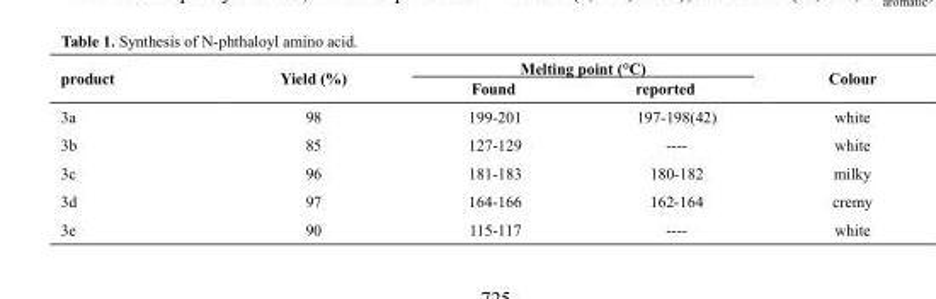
<table><thead><tr><td rowspan="2">product 3a</td><td rowspan="2">Yield (%) 98</td><td colspan="2">Melting point (°C) Found reported</td><td rowspan="2">Colour white</td></tr><tr><td>199-201</td><td>197-198(42)</td></tr></thead><tbody><tr><td>3b</td><td>85</td><td>127-129</td><td>----</td><td>white</td></tr><tr><td>3c</td><td>96</td><td>181-183</td><td>180-182</td><td>milky</td></tr><tr><td>3d</td><td>97</td><td>164-166</td><td>162-164</td><td>cremy</td></tr><tr><td>3e</td><td>90</td><td>115-117</td><td>----</td><td>white</td></tr></tbody></table>